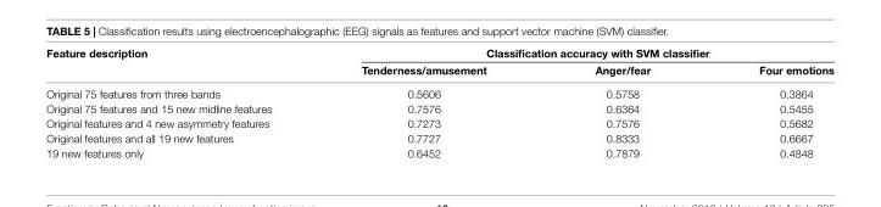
<table><thead><tr><td rowspan="2">Feature description</td><td colspan="3">Classification accuracy with SVM classifier</td></tr><tr><td>Tenderness/amusement</td><td>Anger/fear</td><td>Four emotions</td></tr></thead><tbody><tr><td>Original 75 features from three bands</td><td>0.5606</td><td>0.5758</td><td>0.3864</td></tr><tr><td>Original 75 features and 15 new midline features</td><td>0.7576</td><td>0.6364</td><td>0.5455</td></tr><tr><td>Original features and 4 new asymmetry features</td><td>0.7273</td><td>0.7576</td><td>0.5682</td></tr><tr><td>Original features and all 19 new features</td><td>0.7727</td><td>0.8333</td><td>0.6667</td></tr><tr><td>19 new features only</td><td>0.6452</td><td>0.7879</td><td>0.4848</td></tr></tbody></table>